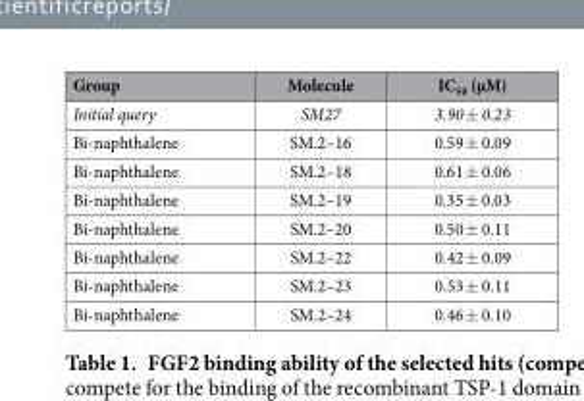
<table><thead><tr><td>Group</td><td>Molecule</td><td>IC<sub>50</sub> (μM)</td></tr></thead><tbody><tr><td>Initial query</td><td>SM27</td><td>3.90 ± 0.23</td></tr><tr><td>Bi-naphthalene</td><td>SM.2–16</td><td>0.59 ± 0.09</td></tr><tr><td>Bi-naphthalene</td><td>SM.2–18</td><td>0.61 ± 0.06</td></tr><tr><td>Bi-naphthalene</td><td>SM.2–19</td><td>0.35 ± 0.03</td></tr><tr><td>Bi-naphthalene</td><td>SM.2–20</td><td>0.50 ± 0.11</td></tr><tr><td>Bi-naphthalene</td><td>SM.2–22</td><td>0.42 ± 0.09</td></tr><tr><td>Bi-naphthalene</td><td>SM.2–23</td><td>0.53 ± 0.11</td></tr><tr><td>Bi-naphthalene</td><td>SM.2–24</td><td>0.46 ± 0.10</td></tr></tbody></table>